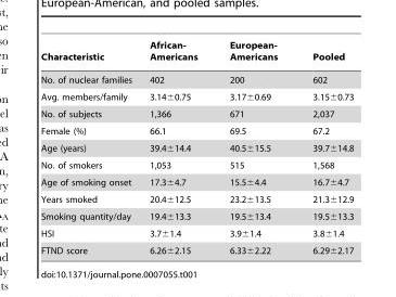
<table><thead><tr><td>Characteristic</td><td>African- Americans</td><td>European- Americans</td><td>Pooled</td></tr></thead><tbody><tr><td>No. of nuclear families</td><td>402</td><td>200</td><td>602</td></tr><tr><td>Avg. members/family</td><td>3.14±0.75</td><td>3.17±0.69</td><td>3.15±0.73</td></tr><tr><td>No. of subjects</td><td>1,366</td><td>671</td><td>2,037</td></tr><tr><td>Female (%)</td><td>66.1</td><td>69.5</td><td>67.2</td></tr><tr><td>Age (years)</td><td>39.4±14.4</td><td>40.5±15.5</td><td>39.7±14.8</td></tr><tr><td>No. of smokers</td><td>1,053</td><td>515</td><td>1,568</td></tr><tr><td>Age of smoking onset</td><td>17.3±4.7</td><td>15.5±4.4</td><td>16.7±4.7</td></tr><tr><td>Years smoked</td><td>20.4±12.5</td><td>23.2±13.5</td><td>21.3±12.9</td></tr><tr><td>Smoking quantity/day</td><td>19.4±13.3</td><td>19.5±13.4</td><td>19.5±13.3</td></tr><tr><td>HSI</td><td>3.7±1.4</td><td>3.9±1.4</td><td>3.8±1.4</td></tr><tr><td>FTND score</td><td>6.26±2.15</td><td>6.33±2.22</td><td>6.29±2.17</td></tr></tbody></table>